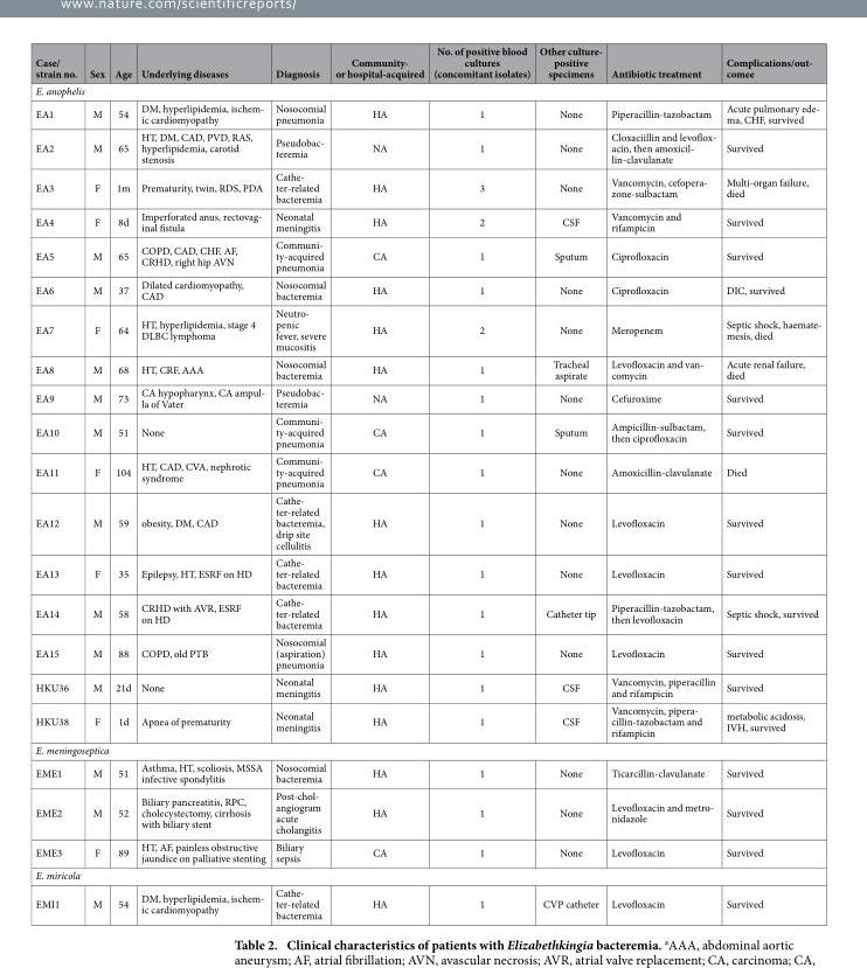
<table><thead><tr><td>Case/ strain no.</td><td>Sex</td><td>Age</td><td>Underlying diseases</td><td>Diagnosis</td><td>Community- or hospital-acquired</td><td>No. of positive blood cultures (concomitant isolates)</td><td>Other culture- positive specimens</td><td>Antibiotic treatment</td><td>Complications/out- comee</td></tr></thead><tbody><tr><td colspan="10">E. anophelis</td></tr><tr><td>EA1</td><td>M</td><td>54</td><td>DM, hyperlipidemia, ischem- ic cardiomyopathy</td><td>Nosocomial pneumonia</td><td>HA</td><td>1</td><td>None</td><td>Piperacillin-tazobactam</td><td>Acute pulmonary ede- ma, CHF, survived</td></tr><tr><td>EA2</td><td>M</td><td>65</td><td>HT, DM, CAD, PVD, RAS, hyperlipidemia, carotid stenosis</td><td>Pseudobac- teremia</td><td>NA</td><td>1</td><td>None</td><td>Cloxaciillin and levoflox- acin, then amoxicil- lin-clavulanate</td><td>Survived</td></tr><tr><td>EA3</td><td>F</td><td>1m</td><td>Prematurity, twin, RDS, PDA</td><td>Cathe- ter-related bacteremia</td><td>HA</td><td>3</td><td>None</td><td>Vancomycin, cefopera- zone-sulbactam</td><td>Multi-organ failure, died</td></tr><tr><td>EA4</td><td>F</td><td>8d</td><td>Imperforated anus, rectovag- inal fistula</td><td>Neonatal meningitis</td><td>HA</td><td>2</td><td>CSF</td><td>Vancomycin and rifampicin</td><td>Survived</td></tr><tr><td>EA5</td><td>M</td><td>65</td><td>COPD, CAD, CHF, AF, CRHD, right hip AVN</td><td>Communi- ty-acquired pneumonia</td><td>CA</td><td>1</td><td>Sputum</td><td>Ciprofloxacin</td><td>Survived</td></tr><tr><td>EA6</td><td>M</td><td>37</td><td>Dilated cardiomyopathy, CAD</td><td>Nosocomial bacteremia</td><td>HA</td><td>1</td><td>None</td><td>Ciprofloxacin</td><td>DIC, survived</td></tr><tr><td>EA7</td><td>F</td><td>64</td><td>HT, hyperlipidemia, stage 4 DLBC lymphoma</td><td>Neutro- penic fever, severe mucositis</td><td>HA</td><td>2</td><td>None</td><td>Meropenem</td><td>Septic shock, haemate- mesis, died</td></tr><tr><td>EA8</td><td>M</td><td>68</td><td>HT, CRF, AAA</td><td>Nosocomial bacteremia</td><td>HA</td><td>1</td><td>Tracheal aspirate</td><td>Levofloxacin and van- comycin</td><td>Acute renal failure, died</td></tr><tr><td>EA9</td><td>M</td><td>73</td><td>CA hypopharynx, CA ampul- la of Vater</td><td>Pseudobac- teremia</td><td>NA</td><td>1</td><td>None</td><td>Cefuroxime</td><td>Survived</td></tr><tr><td>EA10</td><td>M</td><td>51</td><td>None</td><td>Communi- ty-acquired pneumonia</td><td>CA</td><td>1</td><td>Sputum</td><td>Ampicillin-sulbactam, then ciprofloxacin</td><td>Survived</td></tr><tr><td>EA11</td><td>F</td><td>104</td><td>HT, CAD, CVA, nephrotic syndrome</td><td>Communi- ty-acquired pneumonia</td><td>CA</td><td>1</td><td>None</td><td>Amoxicillin-clavulanate</td><td>Died</td></tr><tr><td>EA12</td><td>M</td><td>59</td><td>obesity, DM, CAD</td><td>Cathe- ter-related bacteremia, drip site cellulitis</td><td>HA</td><td>1</td><td>None</td><td>Levofloxacin</td><td>Survived</td></tr><tr><td>EA13</td><td>F</td><td>35</td><td>Epilepsy, HT, ESRF on HD</td><td>Cathe- ter-related bacteremia</td><td>HA</td><td>1</td><td>None</td><td>Levofloxacin</td><td>Survived</td></tr><tr><td>EA14</td><td>M</td><td>58</td><td>CRHD with AVR, ESRF on HD</td><td>Cathe- ter-related bacteremia</td><td>HA</td><td>1</td><td>Catheter tip</td><td>Piperacillin-tazobactam, then levofloxacin</td><td>Septic shock, survived</td></tr><tr><td>EA15</td><td>M</td><td>88</td><td>COPD, old PTB</td><td>Nosocomial (aspiration) pneumonia</td><td>HA</td><td>1</td><td>None</td><td>Levofloxacin</td><td>Survived</td></tr><tr><td>HKU36</td><td>M</td><td>21d</td><td>None</td><td>Neonatal meningitis</td><td>HA</td><td>1</td><td>CSF</td><td>Vancomycin, piperacillin and rifampicin</td><td>Survived</td></tr><tr><td>HKU38</td><td>F</td><td>1d</td><td>Apnea of prematurity</td><td>Neonatal meningitis</td><td>HA</td><td>1</td><td>CSF</td><td>Vancomycin, pipera- cillin-tazobactam and rifampicin</td><td>metabolic acidosis, IVH, survived</td></tr><tr><td colspan="10">E. meningoseptica</td></tr><tr><td>EME1</td><td>M</td><td>51</td><td>Asthma, HT, scoliosis, MSSA infective spondylitis</td><td>Nosocomial bacteremia</td><td>HA</td><td>1</td><td>None</td><td>Ticarcillin-clavulanate</td><td>Survived</td></tr><tr><td>EME2</td><td>M</td><td>52</td><td>Biliary pancreatitis, RPC, cholecystectomy, cirrhosis with biliary stent</td><td>Post-chol- angiogram acute cholangitis</td><td>HA</td><td>1</td><td>None</td><td>Levofloxacin and metro- nidazole</td><td>Survived</td></tr><tr><td>EME3</td><td>F</td><td>89</td><td>HT, AF, painless obstructive jaundice on palliative stenting</td><td>Biliary sepsis</td><td>CA</td><td>1</td><td>None</td><td>Levofloxacin</td><td>Survived</td></tr><tr><td colspan="10">E. miricola</td></tr><tr><td>EMI1</td><td>M</td><td>54</td><td>DM, hyperlipidemia, ischem- ic cardiomyopathy</td><td>Cathe- ter-related bacteremia</td><td>HA</td><td>1</td><td>CVP catheter</td><td>Levofloxacin</td><td>Survived</td></tr></tbody></table>